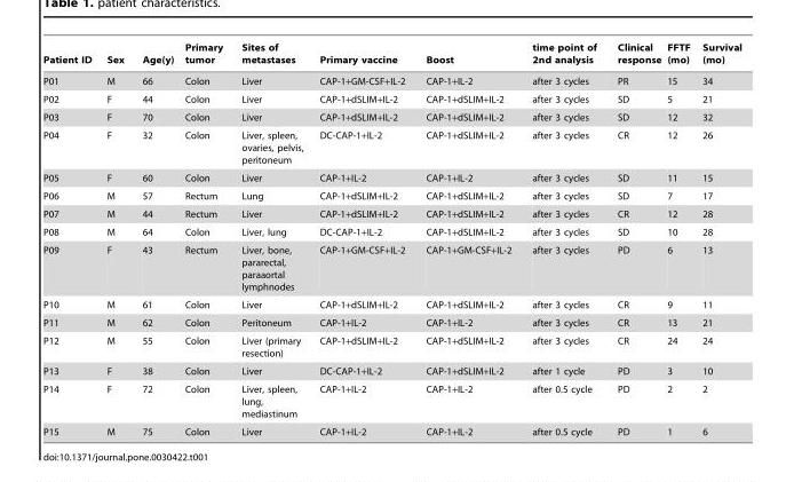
<table><thead><tr><td>Patient ID</td><td>Sex</td><td>Age(y)</td><td>Primary tumor</td><td>Sites of metastases</td><td>Primary vaccine</td><td>Boost</td><td>time point of 2nd analysis</td><td>Clinical response</td><td>FFTF (mo)</td><td>Survival (mo)</td></tr></thead><tbody><tr><td>P01</td><td>M</td><td>66</td><td>Colon</td><td>Liver</td><td>CAP-1+GM-CSF+IL-2</td><td>CAP-1+IL-2</td><td>after 3 cycles</td><td>PR</td><td>15</td><td>34</td></tr><tr><td>P02</td><td>F</td><td>44</td><td>Colon</td><td>Liver</td><td>CAP-1+dSLIM+IL-2</td><td>CAP-1+dSLIM+IL-2</td><td>after 3 cycles</td><td>SD</td><td>5</td><td>21</td></tr><tr><td>P03</td><td>F</td><td>70</td><td>Colon</td><td>Liver</td><td>CAP-1+dSLIM+IL-2</td><td>CAP-1+dSLIM+IL-2</td><td>after 3 cycles</td><td>SD</td><td>12</td><td>32</td></tr><tr><td>P04</td><td>F</td><td>32</td><td>Colon</td><td>Liver, spleen, ovaries, pelvis, peritoneum</td><td>DC-CAP-1+IL-2</td><td>CAP-1+dSLIM+IL-2</td><td>after 3 cycles</td><td>CR</td><td>12</td><td>26</td></tr><tr><td>P05</td><td>F</td><td>60</td><td>Colon</td><td>Liver</td><td>CAP-1+IL-2</td><td>CAP-1+IL-2</td><td>after 3 cycles</td><td>SD</td><td>11</td><td>15</td></tr><tr><td>P06</td><td>M</td><td>57</td><td>Rectum</td><td>Lung</td><td>CAP-1+dSLIM+IL-2</td><td>CAP-1+dSLIM+IL-2</td><td>after 3 cycles</td><td>SD</td><td>7</td><td>17</td></tr><tr><td>P07</td><td>M</td><td>44</td><td>Rectum</td><td>Liver</td><td>CAP-1+dSLIM+IL-2</td><td>CAP-1+dSLIM+IL-2</td><td>after 3 cycles</td><td>CR</td><td>12</td><td>28</td></tr><tr><td>P08</td><td>M</td><td>64</td><td>Colon</td><td>Liver, lung</td><td>DC-CAP-1+IL-2</td><td>CAP-1+dSLIM+IL-2</td><td>after 3 cycles</td><td>SD</td><td>10</td><td>28</td></tr><tr><td>P09</td><td>F</td><td>43</td><td>Rectum</td><td>Liver, bone, pararectal, paraaortal lymphnodes</td><td>CAP-1+GM-CSF+IL-2</td><td>CAP-1+GM-CSF+IL-2</td><td>after 3 cycles</td><td>PD</td><td>6</td><td>13</td></tr><tr><td>P10</td><td>M</td><td>61</td><td>Colon</td><td>Liver</td><td>CAP-1+dSLIM+IL-2</td><td>CAP-1+dSLIM+IL-2</td><td>after 3 cycles</td><td>CR</td><td>9</td><td>11</td></tr><tr><td>P11</td><td>M</td><td>62</td><td>Colon</td><td>Peritoneum</td><td>CAP-1+IL-2</td><td>CAP-1+IL-2</td><td>after 3 cycles</td><td>CR</td><td>13</td><td>21</td></tr><tr><td>P12</td><td>M</td><td>55</td><td>Colon</td><td>Liver (primary resection)</td><td>CAP-1+dSLIM+IL-2</td><td>CAP-1+dSLIM+IL-2</td><td>after 3 cycles</td><td>CR</td><td>24</td><td>24</td></tr><tr><td>P13</td><td>F</td><td>38</td><td>Colon</td><td>Liver</td><td>DC-CAP-1+IL-2</td><td>CAP-1+dSLIM+IL-2</td><td>after 1 cycle</td><td>PD</td><td>3</td><td>10</td></tr><tr><td>P14</td><td>F</td><td>72</td><td>Colon</td><td>Liver, spleen, lung, mediastinum</td><td>CAP-1+IL-2</td><td>CAP-1+IL-2</td><td>after 0.5 cycle</td><td>PD</td><td>2</td><td>2</td></tr><tr><td>P15</td><td>M</td><td>75</td><td>Colon</td><td>Liver</td><td>CAP-1+IL-2</td><td>CAP-1+IL-2</td><td>after 0.5 cycle</td><td>PD</td><td>1</td><td>6</td></tr></tbody></table>